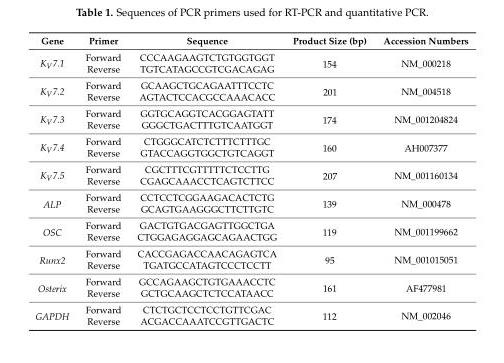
<table><thead><tr><td>Gene</td><td>Primer</td><td>Sequence</td><td>Product Size (bp)</td><td>Accession Numbers</td></tr></thead><tbody><tr><td rowspan="2">K<sub>V</sub>7.1</td><td>Forward</td><td>CCCAAGAAGTCTGTGGTGGT</td><td rowspan="2">154</td><td rowspan="2">NM_000218</td></tr><tr><td>Reverse</td><td>TGTCATAGCCGTCGACAGAG</td></tr><tr><td rowspan="2">K<sub>V</sub>7.2</td><td>Forward</td><td>GCAAGCTGCAGAATTTCCTC</td><td rowspan="2">201</td><td rowspan="2">NM_004518</td></tr><tr><td>Reverse</td><td>AGTACTCCACGCCAAACACC</td></tr><tr><td rowspan="2">K<sub>V</sub>7.3</td><td>Forward</td><td>GGTGCAGGTCACGGAGTATT</td><td rowspan="2">174</td><td rowspan="2">NM_001204824</td></tr><tr><td>Reverse</td><td>GGGCTGACTTTGTCAATGGT</td></tr><tr><td rowspan="2">K<sub>V</sub>7.4</td><td>Forward</td><td>CTGGGCATCTCTTTCTTTGC</td><td rowspan="2">160</td><td rowspan="2">AH007377</td></tr><tr><td>Reverse</td><td>GTACCAGGTGGCTGTCAGGT</td></tr><tr><td rowspan="2">K<sub>V</sub>7.5</td><td>Forward</td><td>CGCTTTCGTTTTTCTCCTTG</td><td rowspan="2">207</td><td rowspan="2">NM_001160134</td></tr><tr><td>Reverse</td><td>CGAGCAAACCTCAGTCTTCC</td></tr><tr><td rowspan="2">ALP</td><td>Forward</td><td>CCTCCTCGGAAGACACTCTG</td><td rowspan="2">139</td><td rowspan="2">NM_000478</td></tr><tr><td>Reverse</td><td>GCAGTGAAGGGCTTCTTGTC</td></tr><tr><td rowspan="2">OSC</td><td>Forward</td><td>GACTGTGACGAGTTGGCTGA</td><td rowspan="2">119</td><td rowspan="2">NM_001199662</td></tr><tr><td>Reverse</td><td>CTGGAGAGGAGCAGAACTGG</td></tr><tr><td rowspan="2">Runx2</td><td>Forward</td><td>CACCGAGACCAACAGAGTCA</td><td rowspan="2">95</td><td rowspan="2">NM_001015051</td></tr><tr><td>Reverse</td><td>TGATGCCATAGTCCCTCCTT</td></tr><tr><td rowspan="2">Osterix</td><td>Forward</td><td>GCCAGAAGCTGTGAAACCTC</td><td rowspan="2">161</td><td rowspan="2">AF477981</td></tr><tr><td>Reverse</td><td>GCTGCAAGCTCTCCATAACC</td></tr><tr><td rowspan="2">GAPDH</td><td>Forward</td><td>CTCTGCTCCTCCTGTTCGAC</td><td rowspan="2">112</td><td rowspan="2">NM_002046</td></tr><tr><td>Reverse</td><td>ACGACCAAATCCGTTGACTC</td></tr></tbody></table>